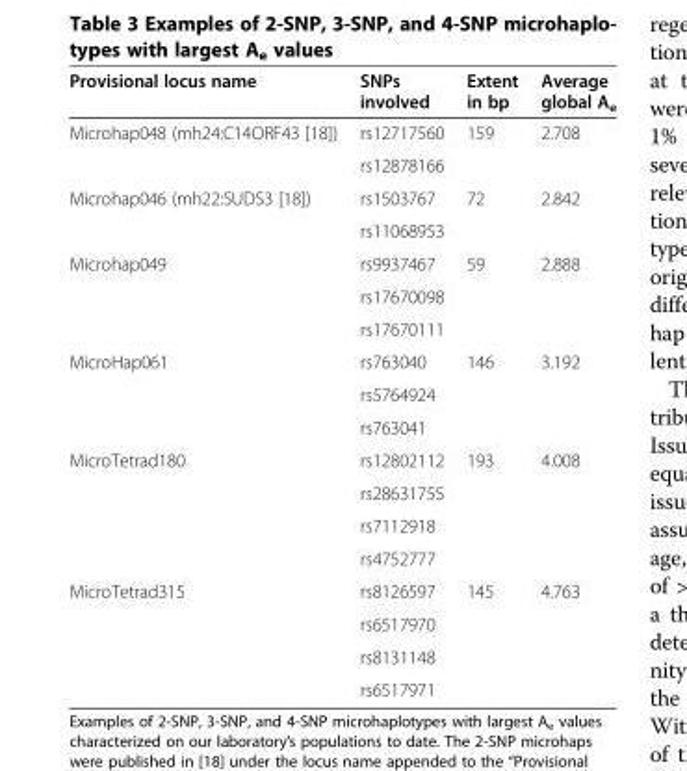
<table><thead><tr><td>Provisional locus name</td><td>SNPs involved</td><td>Extent in bp</td><td>Average global A<sub>e</sub></td></tr></thead><tbody><tr><td rowspan="2">Microhap048 (mh24:C14ORF43 [18])</td><td>rs12717560</td><td rowspan="2">159</td><td rowspan="2">2.708</td></tr><tr><td>rs12878166</td></tr><tr><td rowspan="2">Microhap046 (mh22:SUDS3 [18])</td><td>rs1503767</td><td rowspan="2">72</td><td rowspan="2">2.842</td></tr><tr><td>rs11068953</td></tr><tr><td rowspan="3">Microhap049</td><td>rs9937467</td><td rowspan="3">59</td><td rowspan="3">2.888</td></tr><tr><td>rs17670098</td></tr><tr><td>rs17670111</td></tr><tr><td rowspan="3">MicroHap061</td><td>rs763040</td><td rowspan="3">146</td><td rowspan="3">3.192</td></tr><tr><td>rs5764924</td></tr><tr><td>rs763041</td></tr><tr><td rowspan="4">MicroTetrad180</td><td>rs12802112</td><td rowspan="4">193</td><td rowspan="4">4.008</td></tr><tr><td>rs28631755</td></tr><tr><td>rs7112918</td></tr><tr><td>rs4752777</td></tr><tr><td rowspan="4">MicroTetrad315</td><td>rs8126597</td><td rowspan="4">145</td><td rowspan="4">4.763</td></tr><tr><td>rs6517970</td></tr><tr><td>rs8131148</td></tr><tr><td>rs6517971</td></tr></tbody></table>